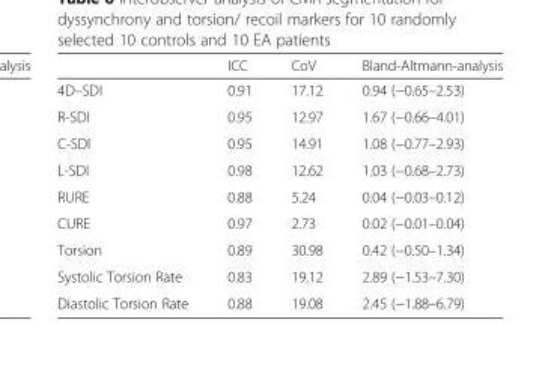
<table><thead><tr><td></td><td>ICC</td><td>CoV</td><td>Bland-Altmann-analysis</td></tr></thead><tbody><tr><td>4D–SDI</td><td>0.91</td><td>17.12</td><td>0.94 (−0.65–2.53)</td></tr><tr><td>R-SDI</td><td>0.95</td><td>12.97</td><td>1.67 (−0.66–4.01)</td></tr><tr><td>C-SDI</td><td>0.95</td><td>14.91</td><td>1.08 (−0.77–2.93)</td></tr><tr><td>L-SDI</td><td>0.98</td><td>12.62</td><td>1.03 (−0.68–2.73)</td></tr><tr><td>RURE</td><td>0.88</td><td>5.24</td><td>0.04 (−0.03–0.12)</td></tr><tr><td>CURE</td><td>0.97</td><td>2.73</td><td>0.02 (−0.01–0.04)</td></tr><tr><td>Torsion</td><td>0.89</td><td>30.98</td><td>0.42 (−0.50–1.34)</td></tr><tr><td>Systolic Torsion Rate</td><td>0.83</td><td>19.12</td><td>2.89 (−1.53–7.30)</td></tr><tr><td>Diastolic Torsion Rate</td><td>0.88</td><td>19.08</td><td>2.45 (−1.88–6.79)</td></tr></tbody></table>